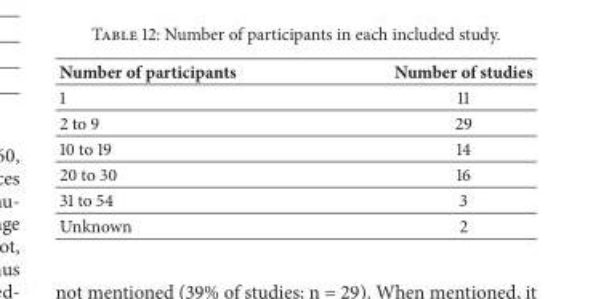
<table><thead><tr><td>Number of participants</td><td>Number of studies</td></tr></thead><tbody><tr><td>1</td><td>11</td></tr><tr><td>2 to 9</td><td>29</td></tr><tr><td>10 to 19</td><td>14</td></tr><tr><td>20 to 30</td><td>16</td></tr><tr><td>31 to 54</td><td>3</td></tr><tr><td>Unknown</td><td>2</td></tr></tbody></table>